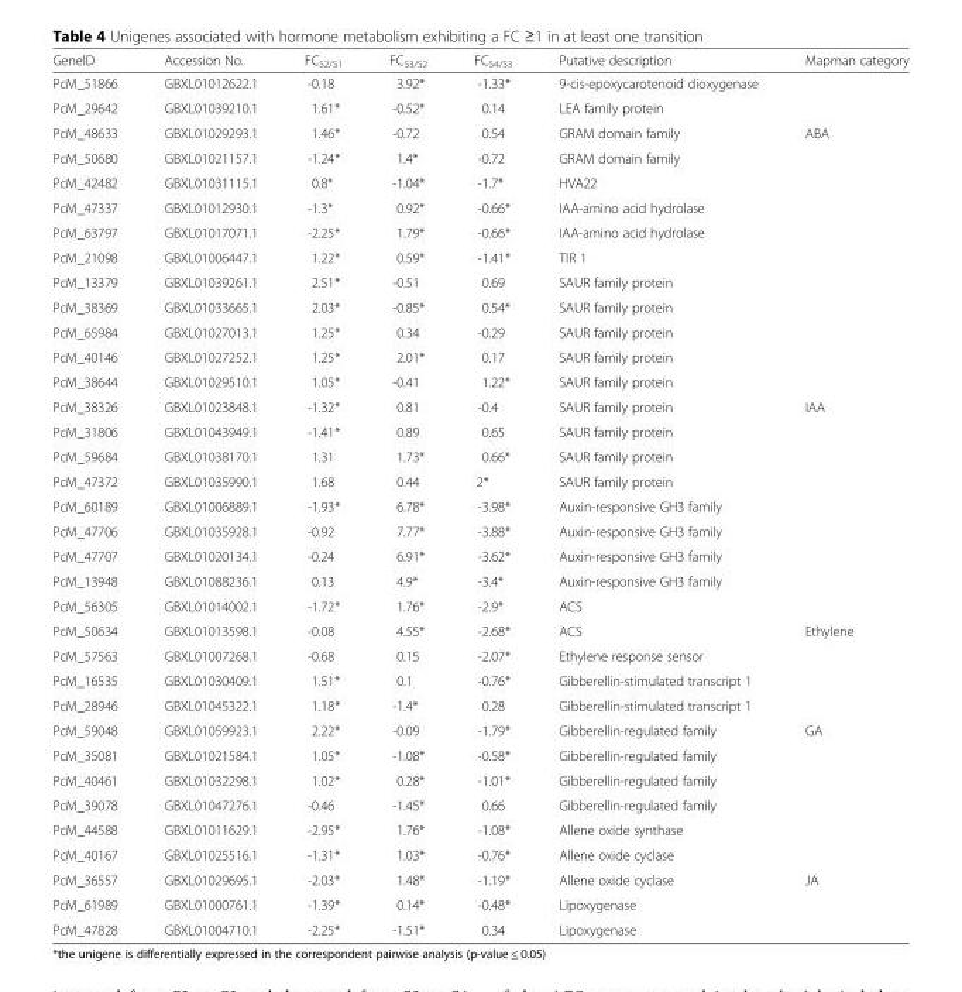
<table><thead><tr><td>GenelD</td><td>Accession No.</td><td>FC<sub>S2/S1</sub></td><td>FC<sub>S3/S2</sub></td><td>FC<sub>S4/S3</sub></td><td>Putative description</td><td>Mapman category</td></tr></thead><tbody><tr><td>PcM_51866</td><td>GBXL01012622.1</td><td>-0.18</td><td>3.92*</td><td>-1.33*</td><td>9-cis-epoxycarotenoid dioxygenase</td><td></td></tr><tr><td>PcM_29642</td><td>GBXL01039210.1</td><td>1.61*</td><td>-0.52*</td><td>0.14</td><td>LEA family protein</td><td></td></tr><tr><td>PcM_48633</td><td>GBXL01029293.1</td><td>1.46*</td><td>-0.72</td><td>0.54</td><td>GRAM domain family</td><td>ABA</td></tr><tr><td>PcM_50680</td><td>GBXL01021157.1</td><td>-1.24*</td><td>1.4*</td><td>-0.72</td><td>GRAM domain family</td><td></td></tr><tr><td>PcM_42482</td><td>GBXL01031115.1</td><td>0.8*</td><td>-1.04*</td><td>-1.7*</td><td>HVA22</td><td></td></tr><tr><td>PcM_47337</td><td>GBXL01012930.1</td><td>-1.3*</td><td>0.92*</td><td>-0.66*</td><td>IAA-amino acid hydrolase</td><td></td></tr><tr><td>PcM_63797</td><td>GBXL01017071.1</td><td>-2.25*</td><td>1.79*</td><td>-0.66*</td><td>IAA-amino acid hydrolase</td><td></td></tr><tr><td>PcM_21098</td><td>GBXL01006447.1</td><td>1.22*</td><td>0.59*</td><td>-1.41*</td><td>TIR 1</td><td></td></tr><tr><td>PcM_13379</td><td>GBXL01039261.1</td><td>2.51*</td><td>-0.51</td><td>0.69</td><td>SAUR family protein</td><td></td></tr><tr><td>PcM_38369</td><td>GBXL01033665.1</td><td>2.03*</td><td>-0.85*</td><td>0.54*</td><td>SAUR family protein</td><td></td></tr><tr><td>PcM_65984</td><td>GBXL01027013.1</td><td>1.25*</td><td>0.34</td><td>-0.29</td><td>SAUR family protein</td><td></td></tr><tr><td>PcM_40146</td><td>GBXL01027252.1</td><td>1.25*</td><td>2.01*</td><td>0.17</td><td>SAUR family protein</td><td></td></tr><tr><td>PcM_38644</td><td>GBXL01029510.1</td><td>1.05*</td><td>-0.41</td><td>1.22*</td><td>SAUR family protein</td><td></td></tr><tr><td>PcM_38326</td><td>GBXL01023848.1</td><td>-1.32*</td><td>0.81</td><td>-0.4</td><td>SAUR family protein</td><td>IAA</td></tr><tr><td>PcM_31806</td><td>GBXL01043949.1</td><td>-1.41*</td><td>0.89</td><td>0.65</td><td>SAUR family protein</td><td></td></tr><tr><td>PcM_59684</td><td>GBXL01038170.1</td><td>1.31</td><td>1.73*</td><td>0.66*</td><td>SAUR family protein</td><td></td></tr><tr><td>PcM_47372</td><td>GBXL01035990.1</td><td>1.68</td><td>0.44</td><td>2*</td><td>SAUR family protein</td><td></td></tr><tr><td>PcM_60189</td><td>GBXL01006889.1</td><td>-1.93*</td><td>6.78*</td><td>-3.98*</td><td>Auxin-responsive GH3 family</td><td></td></tr><tr><td>PcM_47706</td><td>GBXL01035928.1</td><td>-0.92</td><td>7.77*</td><td>-3.88*</td><td>Auxin-responsive GH3 family</td><td></td></tr><tr><td>PcM_47707</td><td>GBXL01020134.1</td><td>-0.24</td><td>6.91*</td><td>-3.62*</td><td>Auxin-responsive GH3 family</td><td></td></tr><tr><td>PcM_13948</td><td>GBXL01088236.1</td><td>0.13</td><td>4.9*</td><td>-3.4*</td><td>Auxin-responsive GH3 family</td><td></td></tr><tr><td>PcM_56305</td><td>GBXL01014002.1</td><td>-1.72*</td><td>1.76*</td><td>-2.9*</td><td>ACS</td><td></td></tr><tr><td>PcM_50634</td><td>GBXL01013598.1</td><td>-0.08</td><td>4.55*</td><td>-2.68*</td><td>ACS</td><td>Ethylene</td></tr><tr><td>PcM_57563</td><td>GBXL01007268.1</td><td>-0.68</td><td>0.15</td><td>-2.07*</td><td>Ethylene response sensor</td><td></td></tr><tr><td>PcM_16535</td><td>GBXL01030409.1</td><td>1.51*</td><td>0.1</td><td>-0.76*</td><td>Gibberellin-stimulated transcript 1</td><td></td></tr><tr><td>PcM_28946</td><td>GBXL01045322.1</td><td>1.18*</td><td>-1.4*</td><td>0.28</td><td>Gibberellin-stimulated transcript 1</td><td></td></tr><tr><td>PcM_59048</td><td>GBXL01059923.1</td><td>2.22*</td><td>-0.09</td><td>-1.79*</td><td>Gibberellin-regulated family</td><td rowspan="2">GA</td></tr><tr><td>PcM_35081</td><td>GBXL01021584.1</td><td>1.05*</td><td>-1.08*</td><td>-0.58*</td><td>Gibberellin-regulated family</td></tr><tr><td>PcM_40461</td><td>GBXL01032298.1</td><td>1.02*</td><td>0.28*</td><td>-1.01*</td><td>Gibberellin-regulated family</td><td></td></tr><tr><td>PcM_39078</td><td>GBXL01047276.1</td><td>-0.46</td><td>-1.45*</td><td>0.66</td><td>Gibberellin-regulated family</td><td></td></tr><tr><td>PcM_44588</td><td>GBXL01011629.1</td><td>-2.95*</td><td>1.76*</td><td>-1.08*</td><td>Allene oxide synthase</td><td></td></tr><tr><td>PcM_40167</td><td>GBXL01025516.1</td><td>-1.31*</td><td>1.03*</td><td>-0.76*</td><td>Allene oxide cyclase</td><td></td></tr><tr><td>PcM_36557</td><td>GBXL01029695.1</td><td>-2.03*</td><td>1.48*</td><td>-1.19*</td><td>Allene oxide cyclase</td><td>JA</td></tr><tr><td>PcM_61989</td><td>GBXL01000761.1</td><td>-1.39*</td><td>0.14*</td><td>-0.48*</td><td>Lipoxygenase</td><td></td></tr><tr><td>PcM_47828</td><td>GBXL01004710.1</td><td>-2.25*</td><td>-1.51*</td><td>0.34</td><td>Lipoxygenase</td><td></td></tr></tbody></table>